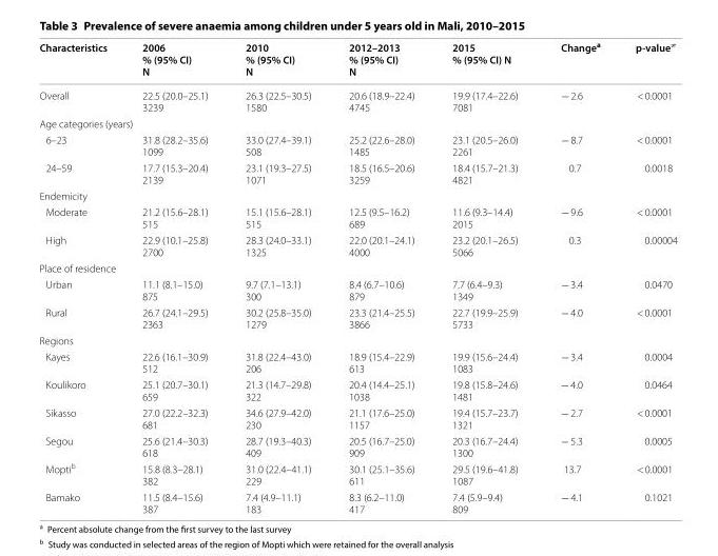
<table><thead><tr><td>Characteristics</td><td>2006 % (95% CI) N</td><td>2010 % (95% CI) N</td><td>2012–2013 % (95% CI) N</td><td>2015 % (95% CI) N</td><td>Change<sup>a</sup></td><td>p-value<sup>≠</sup></td></tr></thead><tbody><tr><td>Overall</td><td>22.5 (20.0–25.1) 3239</td><td>26.3 (22.5–30.5) 1580</td><td>20.6 (18.9–22.4) 4745</td><td>19.9 (17.4–22.6) 7081</td><td>− 2.6</td><td>&lt; 0.0001</td></tr><tr><td colspan="7">Age categories (years)</td></tr><tr><td>6–23</td><td>31.8 (28.2–35.6) 1099</td><td>33.0 (27.4–39.1) 508</td><td>25.2 (22.6–28.0) 1485</td><td>23.1 (20.5–26.0) 2261</td><td>− 8.7</td><td>&lt; 0.0001</td></tr><tr><td>24–59</td><td>17.7 (15.3–20.4) 2139</td><td>23.1 (19.3–27.5) 1071</td><td>18.5 (16.5–20.6) 3259</td><td>18.4 (15.7–21.3) 4821</td><td>0.7</td><td>0.0018</td></tr><tr><td colspan="7">Endemicity</td></tr><tr><td>Moderate</td><td>21.2 (15.6–28.1) 515</td><td>15.1 (15.6–28.1) 515</td><td>12.5 (9.5–16.2) 689</td><td>11.6 (9.3–14.4) 2015</td><td>− 9.6</td><td>&lt; 0.0001</td></tr><tr><td>High</td><td>22.9 (10.1–25.8) 2700</td><td>28.3 (24.0–33.1) 1325</td><td>22.0 (20.1–24.1) 4000</td><td>23.2 (20.1–26.5) 5066</td><td>0.3</td><td>0.00004</td></tr><tr><td colspan="7">Place of residence</td></tr><tr><td>Urban</td><td>11.1 (8.1–15.0) 875</td><td>9.7 (7.1–13.1) 300</td><td>8.4 (6.7–10.6) 879</td><td>7.7 (6.4–9.3) 1349</td><td>− 3.4</td><td>0.0470</td></tr><tr><td>Rural</td><td>26.7 (24.1–29.5) 2363</td><td>30.2 (25.8–35.0) 1279</td><td>23.3 (21.4–25.5) 3866</td><td>22.7 (19.9–25.9) 5733</td><td>− 4.0</td><td>&lt; 0.0001</td></tr><tr><td colspan="7">Regions</td></tr><tr><td>Kayes</td><td>22.6 (16.1–30.9) 512</td><td>31.8 (22.4–43.0) 206</td><td>18.9 (15.4–22.9) 613</td><td>19.9 (15.6–24.4) 1083</td><td>− 3.4</td><td>0.0004</td></tr><tr><td>Koulikoro</td><td>25.1 (20.7–30.1) 659</td><td>21.3 (14.7–29.8) 322</td><td>20.4 (14.4–25.1) 1038</td><td>19.8 (15.8–24.6) 1481</td><td>− 4.0</td><td>0.0464</td></tr><tr><td>Sikasso</td><td>27.0 (22.2–32.3) 681</td><td>34.6 (27.9–42.0) 230</td><td>21.1 (17.6–25.0) 1157</td><td>19.4 (15.7–23.7) 1321</td><td>− 2.7</td><td>&lt; 0.0001</td></tr><tr><td>Segou</td><td>25.6 (21.4–30.3) 618</td><td>28.7 (19.3–40.3) 409</td><td>20.5 (16.7–25.0) 909</td><td>20.3 (16.7–24.4) 1300</td><td>− 5.3</td><td>0.0005</td></tr><tr><td>Mopti<sup>b</sup></td><td>15.8 (8.3–28.1) 382</td><td>31.0 (22.4–41.1) 229</td><td>30.1 (25.1–35.6) 611</td><td>29.5 (19.6–41.8) 1087</td><td>13.7</td><td>&lt; 0.0001</td></tr><tr><td>Bamako</td><td>11.5 (8.4–15.6) 387</td><td>7.4 (4.9–11.1) 183</td><td>8.3 (6.2–11.0) 417</td><td>7.4 (5.9–9.4) 809</td><td>− 4.1</td><td>0.1021</td></tr></tbody></table>